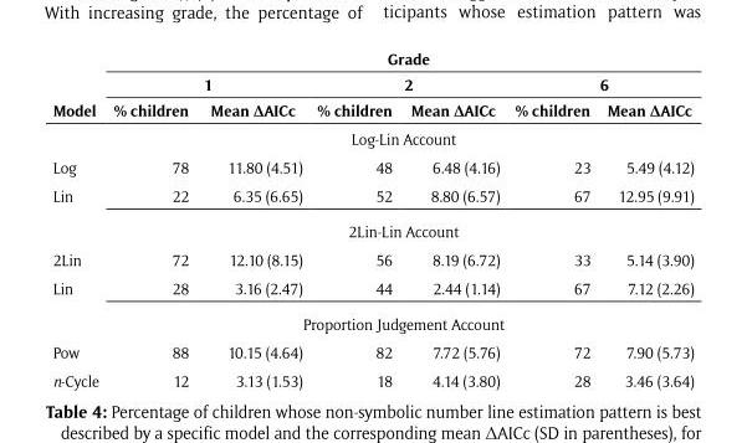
<table><thead><tr><td rowspan="3">Model</td><td colspan="6">Grade</td></tr><tr><td colspan="2">1</td><td colspan="2">2</td><td colspan="2">6</td></tr><tr><td>% children</td><td>Mean ΔAICc</td><td>% children</td><td>Mean ΔAICc</td><td>% children</td><td>Mean ΔAICc</td></tr></thead><tbody><tr><td colspan="7">Log-Lin Account</td></tr><tr><td>Log</td><td>78</td><td>11.80 (4.51)</td><td>48</td><td>6.48 (4.16)</td><td>23</td><td>5.49 (4.12)</td></tr><tr><td>Lin</td><td>22</td><td>6.35 (6.65)</td><td>52</td><td>8.80 (6.57)</td><td>67</td><td>12.95 (9.91)</td></tr><tr><td colspan="7">2Lin-Lin Account</td></tr><tr><td>2Lin</td><td>72</td><td>12.10 (8.15)</td><td>56</td><td>8.19 (6.72)</td><td>33</td><td>5.14 (3.90)</td></tr><tr><td>Lin</td><td>28</td><td>3.16 (2.47)</td><td>44</td><td>2.44 (1.14)</td><td>67</td><td>7.12 (2.26)</td></tr><tr><td colspan="7">Proportion Judgement Account</td></tr><tr><td>Pow</td><td>88</td><td>10.15 (4.64)</td><td>82</td><td>7.72 (5.76)</td><td>72</td><td>7.90 (5.73)</td></tr><tr><td>n-Cycle</td><td>12</td><td>3.13 (1.53)</td><td>18</td><td>4.14 (3.80)</td><td>28</td><td>3.46 (3.64)</td></tr></tbody></table>